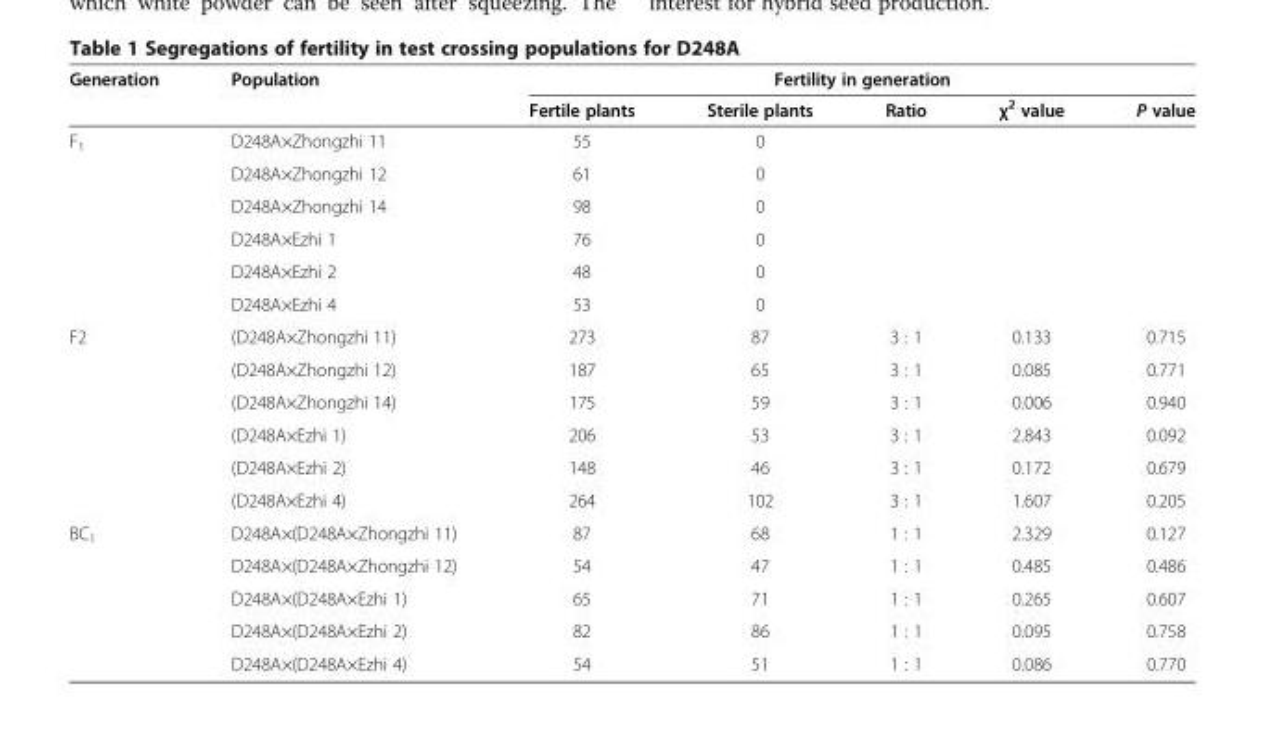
<table><thead><tr><td rowspan="2">Generation</td><td rowspan="2">Population</td><td colspan="5">Fertility in generation</td></tr><tr><td>Fertile plants</td><td>Sterile plants</td><td>Ratio</td><td>χ<sup>2</sup> value</td><td>P value</td></tr></thead><tbody><tr><td rowspan="6">F<sub>1</sub></td><td>D248A×Zhongzhi 11</td><td>55</td><td>0</td><td></td><td></td><td></td></tr><tr><td>D248A×Zhongzhi 12</td><td>61</td><td>0</td><td></td><td></td><td></td></tr><tr><td>D248A×Zhongzhi 14</td><td>98</td><td>0</td><td></td><td></td><td></td></tr><tr><td>D248A×Ezhi 1</td><td>76</td><td>0</td><td></td><td></td><td></td></tr><tr><td>D248A×Ezhi 2</td><td>48</td><td>0</td><td></td><td></td><td></td></tr><tr><td>D248A×Ezhi 4</td><td>53</td><td>0</td><td></td><td></td><td></td></tr><tr><td rowspan="6">F2</td><td>(D248A×Zhongzhi 11)</td><td>273</td><td>87</td><td>3 : 1</td><td>0.133</td><td>0.715</td></tr><tr><td>(D248A×Zhongzhi 12)</td><td>187</td><td>65</td><td>3 : 1</td><td>0.085</td><td>0.771</td></tr><tr><td>(D248A×Zhongzhi 14)</td><td>175</td><td>59</td><td>3 : 1</td><td>0.006</td><td>0.940</td></tr><tr><td>(D248A×Ezhi 1)</td><td>206</td><td>53</td><td>3 : 1</td><td>2.843</td><td>0.092</td></tr><tr><td>(D248A×Ezhi 2)</td><td>148</td><td>46</td><td>3 : 1</td><td>0.172</td><td>0.679</td></tr><tr><td>(D248A×Ezhi 4)</td><td>264</td><td>102</td><td>3 : 1</td><td>1.607</td><td>0.205</td></tr><tr><td rowspan="5">BC<sub>1</sub></td><td>D248A×(D248A×Zhongzhi 11)</td><td>87</td><td>68</td><td>1 : 1</td><td>2.329</td><td>0.127</td></tr><tr><td>D248A×(D248A×Zhongzhi 12)</td><td>54</td><td>47</td><td>1 : 1</td><td>0.485</td><td>0.486</td></tr><tr><td>D248A×(D248A×Ezhi 1)</td><td>65</td><td>71</td><td>1 : 1</td><td>0.265</td><td>0.607</td></tr><tr><td>D248A×(D248A×Ezhi 2)</td><td>82</td><td>86</td><td>1 : 1</td><td>0.095</td><td>0.758</td></tr><tr><td>D248A×(D248A×Ezhi 4)</td><td>54</td><td>51</td><td>1 : 1</td><td>0.086</td><td>0.770</td></tr></tbody></table>